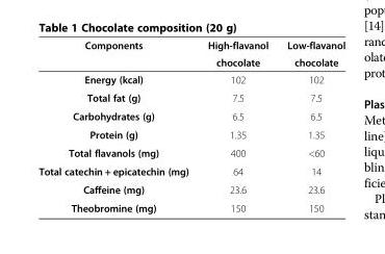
<table><thead><tr><td rowspan="2">Components</td><td rowspan="2">High-flavanol chocolate</td><td rowspan="2">Low-flavanol chocolate</td></tr><tr></tr></thead><tbody><tr><td>Energy (kcal)</td><td>102</td><td>102</td></tr><tr><td>Total fat (g)</td><td>7.5</td><td>7.5</td></tr><tr><td>Carbohydrates (g)</td><td>6.5</td><td>6.5</td></tr><tr><td>Protein (g)</td><td>1.35</td><td>1.35</td></tr><tr><td>Total flavanols (mg)</td><td>400</td><td>&lt;60</td></tr><tr><td>Total catechin + epicatechin (mg)</td><td>64</td><td>14</td></tr><tr><td>Caffeine (mg)</td><td>23.6</td><td>23.6</td></tr><tr><td>Theobromine (mg)</td><td>150</td><td>150</td></tr></tbody></table>